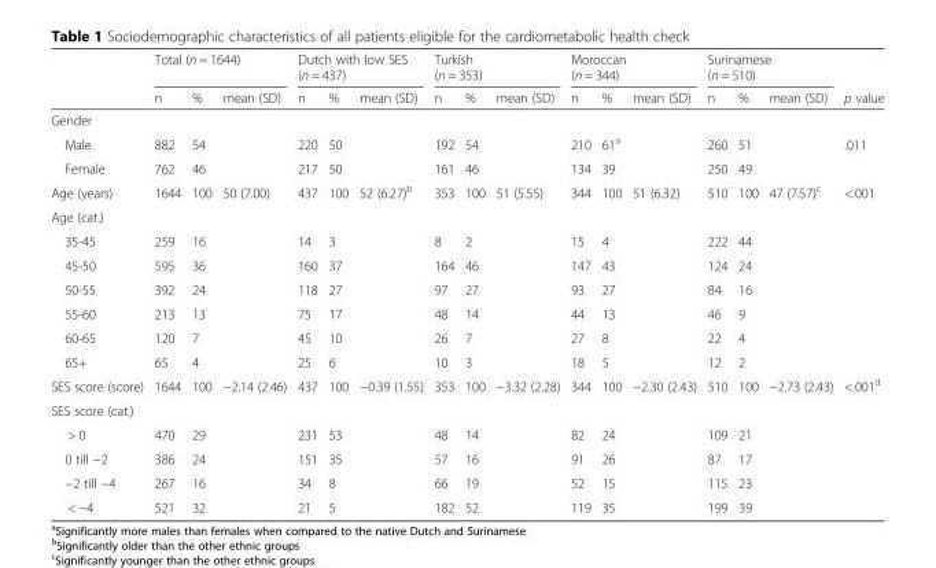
<table><thead><tr><td rowspan="2"></td><td colspan="3">Total (n = 1644)</td><td colspan="3">Dutch with low SES (n = 437)</td><td colspan="3">Turkish (n = 353)</td><td colspan="3">Moroccan (n = 344)</td><td colspan="3">Surinamese (n = 510)</td><td rowspan="2">p value</td></tr><tr><td>n</td><td>%</td><td>mean (SD)</td><td>n</td><td>%</td><td>mean (SD)</td><td>n</td><td>%</td><td>mean (SD)</td><td>n</td><td>%</td><td>mean (SD)</td><td>n</td><td>%</td><td>mean (SD)</td></tr></thead><tbody><tr><td colspan="17">Gender</td></tr><tr><td>Male</td><td>882</td><td>54</td><td></td><td>220</td><td>50</td><td></td><td>192</td><td>54</td><td></td><td>210</td><td>61<sup>a</sup></td><td></td><td>260</td><td>51</td><td></td><td rowspan="2">.011</td></tr><tr><td>Female</td><td>762</td><td>46</td><td></td><td>217</td><td>50</td><td></td><td>161</td><td>46</td><td></td><td>134</td><td>39</td><td></td><td>250</td><td>49</td><td></td></tr><tr><td>Age (years)</td><td>1644</td><td>100</td><td>50 (7.00)</td><td>437</td><td>100</td><td>52 (6.27)<sup>b</sup></td><td>353</td><td>100</td><td>51 (5.55)</td><td>344</td><td>100</td><td>51 (6.32)</td><td>510</td><td>100</td><td>47 (7.57)<sup>c</sup></td><td>&lt;.001</td></tr><tr><td colspan="17">Age (cat.)</td></tr><tr><td>35-45</td><td>259</td><td>16</td><td></td><td>14</td><td>3</td><td></td><td>8</td><td>2</td><td></td><td>15</td><td>4</td><td></td><td>222</td><td>44</td><td></td><td></td></tr><tr><td>45-50</td><td>595</td><td>36</td><td></td><td>160</td><td>37</td><td></td><td>164</td><td>46</td><td></td><td>147</td><td>43</td><td></td><td>124</td><td>24</td><td></td><td></td></tr><tr><td>50-55</td><td>392</td><td>24</td><td></td><td>118</td><td>27</td><td></td><td>97</td><td>27</td><td></td><td>93</td><td>27</td><td></td><td>84</td><td>16</td><td></td><td></td></tr><tr><td>55-60</td><td>213</td><td>13</td><td></td><td>75</td><td>17</td><td></td><td>48</td><td>14</td><td></td><td>44</td><td>13</td><td></td><td>46</td><td>9</td><td></td><td></td></tr><tr><td>60-65</td><td>120</td><td>7</td><td></td><td>45</td><td>10</td><td></td><td>26</td><td>7</td><td></td><td>27</td><td>8</td><td></td><td>22</td><td>4</td><td></td><td></td></tr><tr><td>65+</td><td>65</td><td>4</td><td></td><td>25</td><td>6</td><td></td><td>10</td><td>3</td><td></td><td>18</td><td>5</td><td></td><td>12</td><td>2</td><td></td><td></td></tr><tr><td>SES score (score)</td><td>1644</td><td>100</td><td>−2.14 (2.46)</td><td>437</td><td>100</td><td>−0.39 (1.55)</td><td>353</td><td>100</td><td>−3.32 (2.28)</td><td>344</td><td>100</td><td>−2.30 (2.43)</td><td>510</td><td>100</td><td>−2.73 (2.43)</td><td>&lt;.001<sup>d</sup></td></tr><tr><td colspan="17">SES score (cat.)</td></tr><tr><td>&gt; 0</td><td>470</td><td>29</td><td></td><td>231</td><td>53</td><td></td><td>48</td><td>14</td><td></td><td>82</td><td>24</td><td></td><td>109</td><td>21</td><td></td><td></td></tr><tr><td>0 till −2</td><td>386</td><td>24</td><td></td><td>151</td><td>35</td><td></td><td>57</td><td>16</td><td></td><td>91</td><td>26</td><td></td><td>87</td><td>17</td><td></td><td></td></tr><tr><td>−2 till −4</td><td>267</td><td>16</td><td></td><td>34</td><td>8</td><td></td><td>66</td><td>19</td><td></td><td>52</td><td>15</td><td></td><td>115</td><td>23</td><td></td><td></td></tr><tr><td>&lt; −4</td><td>521</td><td>32</td><td></td><td>21</td><td>5</td><td></td><td>182</td><td>52</td><td></td><td>119</td><td>35</td><td></td><td>199</td><td>39</td><td></td><td></td></tr></tbody></table>